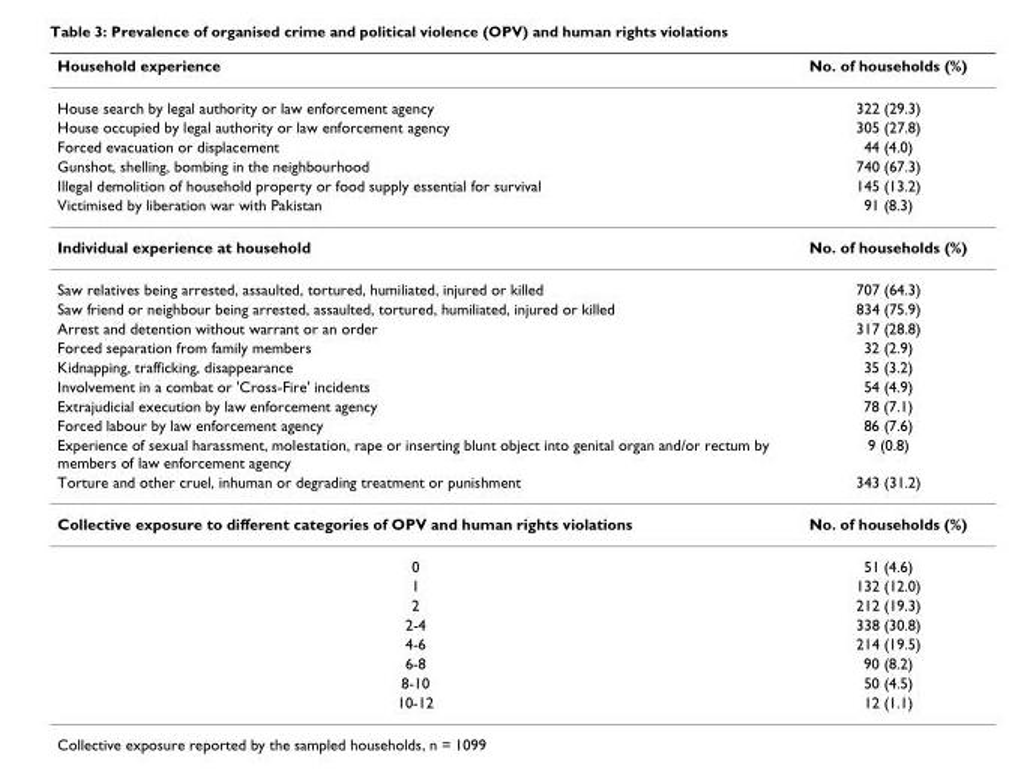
<table><thead><tr><td>Household experience</td><td>No. of households (%)</td></tr></thead><tbody><tr><td>House search by legal authority or law enforcement agency</td><td>322 (29.3)</td></tr><tr><td>House occupied by legal authority or law enforcement agency</td><td>305 (27.8)</td></tr><tr><td>Forced evacuation or displacement</td><td>44 (4.0)</td></tr><tr><td>Gunshot, shelling, bombing in the neighbourhood</td><td>740 (67.3)</td></tr><tr><td>Illegal demolition of household property or food supply essential for survival</td><td>145 (13.2)</td></tr><tr><td>Victimised by liberation war with Pakistan</td><td>91 (8.3)</td></tr><tr><td>Individual experience at household</td><td>No. of households (%)</td></tr><tr><td>Saw relatives being arrested, assaulted, tortured, humiliated, injured or killed</td><td>707 (64.3)</td></tr><tr><td>Saw friend or neighbour being arrested, assaulted, tortured, humiliated, injured or killed</td><td>834 (75.9)</td></tr><tr><td>Arrest and detention without warrant or an order</td><td>317 (28.8)</td></tr><tr><td>Forced separation from family members</td><td>32 (2.9)</td></tr><tr><td>Kidnapping, trafficking, disappearance</td><td>35 (3.2)</td></tr><tr><td>Involvement in a combat or &#x27;Cross-Fire&#x27; incidents</td><td>54 (4.9)</td></tr><tr><td>Extrajudicial execution by law enforcement agency</td><td>78 (7.1)</td></tr><tr><td>Forced labour by law enforcement agency</td><td>86 (7.6)</td></tr><tr><td>Experience of sexual harassment, molestation, rape or inserting blunt object into genital organ and/or rectum by members of law enforcement agency</td><td>9 (0.8)</td></tr><tr><td>Torture and other cruel, inhuman or degrading treatment or punishment</td><td>343 (31.2)</td></tr><tr><td>Collective exposure to different categories of OPV and human rights violations</td><td>No. of households (%)</td></tr><tr><td>0</td><td>51 (4.6)</td></tr><tr><td>1</td><td>132 (12.0)</td></tr><tr><td>2</td><td>212 (19.3)</td></tr><tr><td>2-4</td><td>338 (30.8)</td></tr><tr><td>4-6</td><td>214 (19.5)</td></tr><tr><td>6-8</td><td>90 (8.2)</td></tr><tr><td>8-10</td><td>50 (4.5)</td></tr><tr><td>10-12</td><td>12 (1.1)</td></tr></tbody></table>